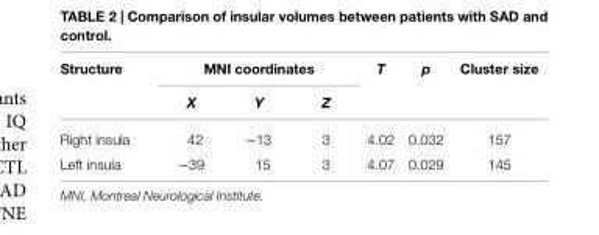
<table><thead><tr><td rowspan="2">structure</td><td colspan="3">Mni coordinates</td><td rowspan="2">T</td><td rowspan="2">p</td><td rowspan="2">cluster size</td></tr><tr><td>X</td><td>Y</td><td>Z</td></tr></thead><tbody><tr><td>Right insula</td><td>42</td><td>−13</td><td>3</td><td>4.02</td><td>0.032</td><td>157</td></tr><tr><td>Left insula</td><td>−39</td><td>15</td><td>3</td><td>4.07</td><td>0.029</td><td>145</td></tr></tbody></table>